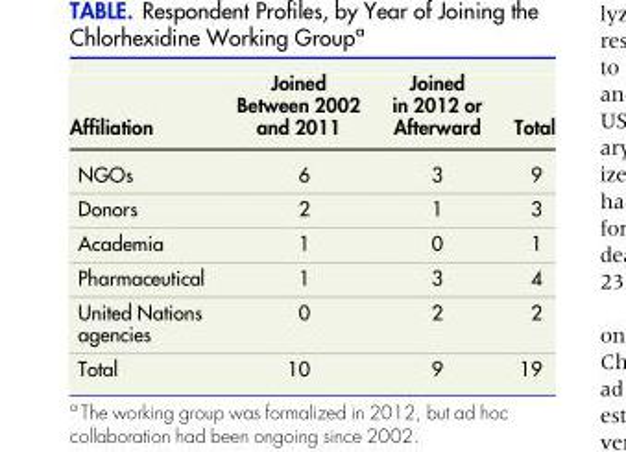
<table><thead><tr><td>Affiliation</td><td>Joined Between 2002 and 2011</td><td>Joined in 2012 or Afterward</td><td>Total</td></tr></thead><tbody><tr><td>NGOs</td><td>6</td><td>3</td><td>9</td></tr><tr><td>Donors</td><td>2</td><td>1</td><td>3</td></tr><tr><td>Academia</td><td>1</td><td>0</td><td>1</td></tr><tr><td>Pharmaceutical</td><td>1</td><td>3</td><td>4</td></tr><tr><td>United Nations agencies</td><td>0</td><td>2</td><td>2</td></tr><tr><td>Total</td><td>10</td><td>9</td><td>19</td></tr></tbody></table>